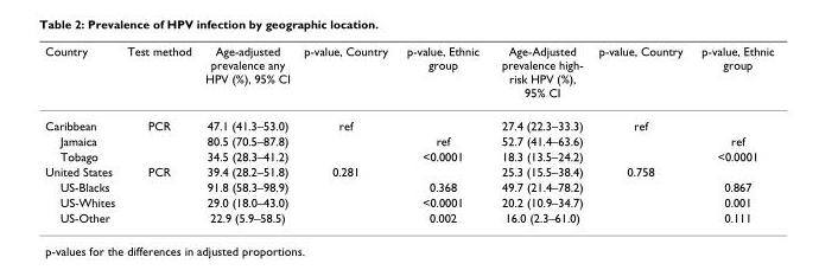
<table><thead><tr><td>Country</td><td>Test method</td><td>Age-adjusted prevalence any HPV (%), 95% CI</td><td>p-value, Country</td><td>p-value, Ethnic group</td><td>Age-Adjusted prevalence high- risk HPV (%), 95% CI</td><td>p-value, Country</td><td>p-value, Ethnic group</td></tr></thead><tbody><tr><td>Caribbean</td><td>PCR</td><td>47.1 (41.3–53.0)</td><td>ref</td><td></td><td>27.4 (22.3–33.3)</td><td>ref</td><td></td></tr><tr><td>Jamaica</td><td></td><td>80.5 (70.5–87.8)</td><td></td><td>ref</td><td>52.7 (41.4–63.6)</td><td></td><td>ref</td></tr><tr><td>Tobago</td><td></td><td>34.5 (28.3–41.2)</td><td></td><td>&lt;0.0001</td><td>18.3 (13.5–24.2)</td><td></td><td>&lt;0.0001</td></tr><tr><td>United States</td><td>PCR</td><td>39.4 (28.2–51.8)</td><td>0.281</td><td></td><td>25.3 (15.5–38.4)</td><td>0.758</td><td></td></tr><tr><td>US-Blacks</td><td></td><td>91.8 (58.3–98.9)</td><td></td><td>0.368</td><td>49.7 (21.4–78.2)</td><td></td><td>0.867</td></tr><tr><td>US-Whites</td><td></td><td>29.0 (18.0–43.0)</td><td></td><td>&lt;0.0001</td><td>20.2 (10.9–34.7)</td><td></td><td>0.001</td></tr><tr><td>US-Other</td><td></td><td>22.9 (5.9–58.5)</td><td></td><td>0.002</td><td>16.0 (2.3–61.0)</td><td></td><td>0.111</td></tr></tbody></table>